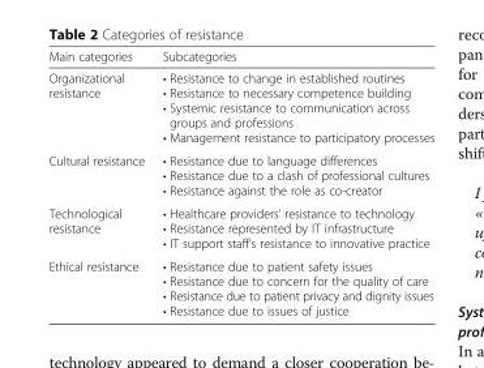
<table><thead><tr><td>Main categories</td><td>Subcategories</td></tr></thead><tbody><tr><td>Organizational resistance</td><td>• Resistance to change in established routines • Resistance to necessary competence building • Systemic resistance to communication across groups and professions • Management resistance to participatory processes</td></tr><tr><td>Cultural resistance</td><td>• Resistance due to language differences • Resistance due to a clash of professional cultures • Resistance against the role as co-creator</td></tr><tr><td>Technological resistance</td><td>• Healthcare providers’ resistance to technology • Resistance represented by IT infrastructure • IT support staff’s resistance to innovative practice</td></tr><tr><td>Ethical resistance</td><td>• Resistance due to patient safety issues • Resistance due to concern for the quality of care • Resistance due to patient privacy and dignity issues • Resistance due to issues of justice</td></tr></tbody></table>